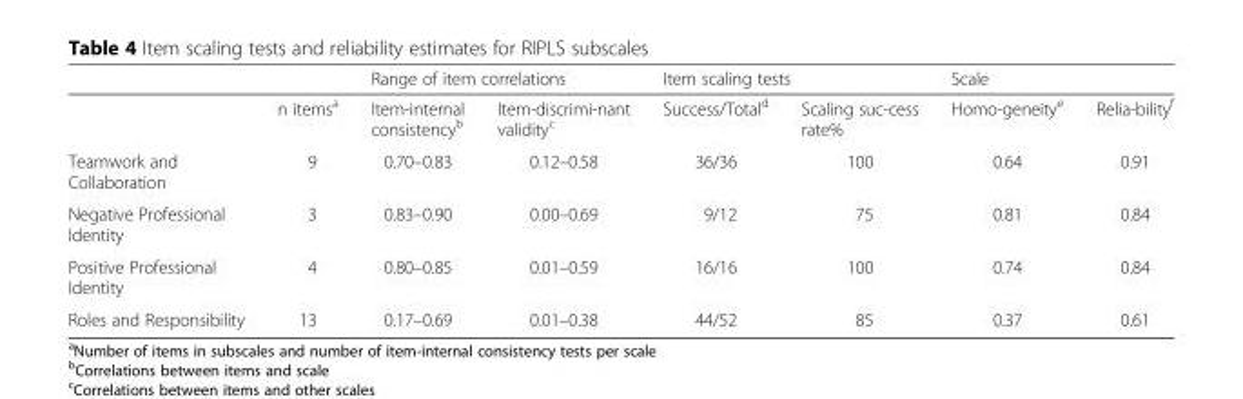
<table><thead><tr><td rowspan="2"></td><td rowspan="2">n items<sup>a</sup></td><td colspan="2">Range of item correlations</td><td colspan="2">Item scaling tests</td><td colspan="2">Scale</td></tr><tr><td>Item-internal consistency<sup>b</sup></td><td>Item-discrimi-nant validity<sup>c</sup></td><td>Success/Total<sup>d</sup></td><td>Scaling suc-cess rate%</td><td>Homo-geneity<sup>e</sup></td><td>Relia-bility<sup>f</sup></td></tr></thead><tbody><tr><td>Teamwork and Collaboration</td><td>9</td><td>0.70–0.83</td><td>0.12–0.58</td><td>36/36</td><td>100</td><td>0.64</td><td>0.91</td></tr><tr><td>Negative Professional Identity</td><td>3</td><td>0.83–0.90</td><td>0.00–0.69</td><td>9/12</td><td>75</td><td>0.81</td><td>0.84</td></tr><tr><td>Positive Professional Identity</td><td>4</td><td>0.80–0.85</td><td>0.01–0.59</td><td>16/16</td><td>100</td><td>0.74</td><td>0.84</td></tr><tr><td>Roles and Responsibility</td><td>13</td><td>0.17–0.69</td><td>0.01–0.38</td><td>44/52</td><td>85</td><td>0.37</td><td>0.61</td></tr></tbody></table>